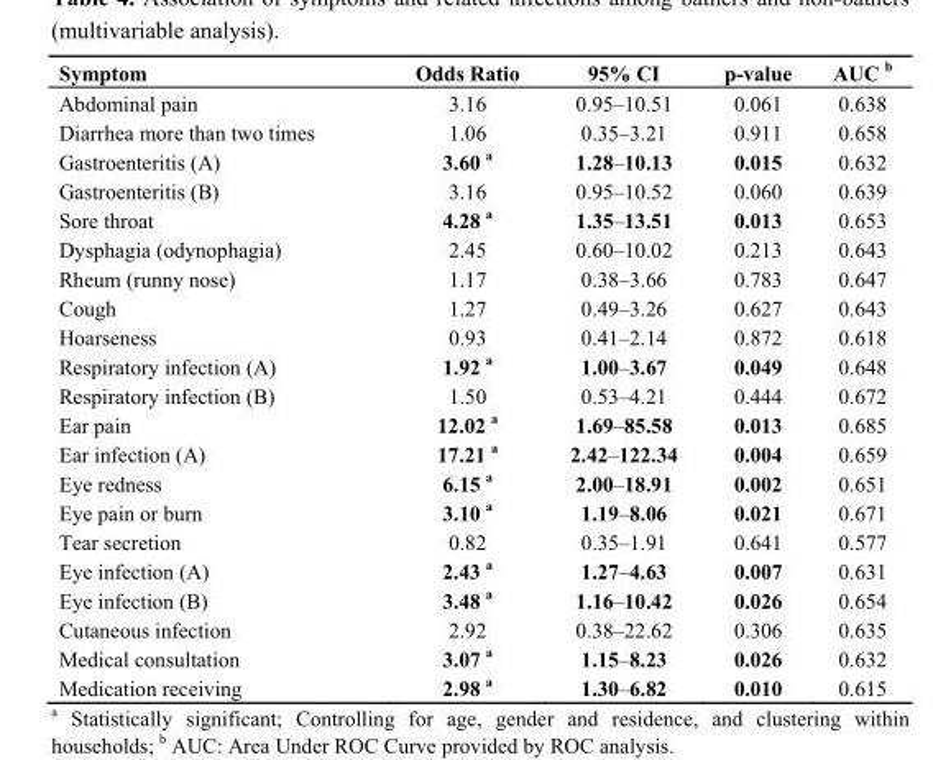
<table><thead><tr><td>Symptom</td><td>Odds Ratio</td><td>95% CI</td><td>p-value</td><td>AUC <sup>b</sup></td></tr></thead><tbody><tr><td>Abdominal pain</td><td>3.16</td><td>0.95–10.51</td><td>0.061</td><td>0.638</td></tr><tr><td>Diarrhea more than two times</td><td>1.06</td><td>0.35–3.21</td><td>0.911</td><td>0.658</td></tr><tr><td>Gastroenteritis (A)</td><td>3.60 <sup>a</sup></td><td>1.28–10.13</td><td>0.015</td><td>0.632</td></tr><tr><td>Gastroenteritis (B)</td><td>3.16</td><td>0.95–10.52</td><td>0.060</td><td>0.639</td></tr><tr><td>Sore throat</td><td>4.28 <sup>a</sup></td><td>1.35–13.51</td><td>0.013</td><td>0.653</td></tr><tr><td>Dysphagia (odynophagia)</td><td>2.45</td><td>0.60–10.02</td><td>0.213</td><td>0.643</td></tr><tr><td>Rheum (runny nose)</td><td>1.17</td><td>0.38–3.66</td><td>0.783</td><td>0.647</td></tr><tr><td>Cough</td><td>1.27</td><td>0.49–3.26</td><td>0.627</td><td>0.643</td></tr><tr><td>Hoarseness</td><td>0.93</td><td>0.41–2.14</td><td>0.872</td><td>0.618</td></tr><tr><td>Respiratory infection (A)</td><td>1.92 <sup>a</sup></td><td>1.00–3.67</td><td>0.049</td><td>0.648</td></tr><tr><td>Respiratory infection (B)</td><td>1.50</td><td>0.53–4.21</td><td>0.444</td><td>0.672</td></tr><tr><td>Ear pain</td><td>12.02 <sup>a</sup></td><td>1.69–85.58</td><td>0.013</td><td>0.685</td></tr><tr><td>Ear infection (A)</td><td>17.21 <sup>a</sup></td><td>2.42–122.34</td><td>0.004</td><td>0.659</td></tr><tr><td>Eye redness</td><td>6.15 <sup>a</sup></td><td>2.00–18.91</td><td>0.002</td><td>0.651</td></tr><tr><td>Eye pain or burn</td><td>3.10 <sup>a</sup></td><td>1.19–8.06</td><td>0.021</td><td>0.671</td></tr><tr><td>Tear secretion</td><td>0.82</td><td>0.35–1.91</td><td>0.641</td><td>0.577</td></tr><tr><td>Eye infection (A)</td><td>2.43 <sup>a</sup></td><td>1.27–4.63</td><td>0.007</td><td>0.631</td></tr><tr><td>Eye infection (B)</td><td>3.48 <sup>a</sup></td><td>1.16–10.42</td><td>0.026</td><td>0.654</td></tr><tr><td>Cutaneous infection</td><td>2.92</td><td>0.38–22.62</td><td>0.306</td><td>0.635</td></tr><tr><td>Medical consultation</td><td>3.07 <sup>a</sup></td><td>1.15–8.23</td><td>0.026</td><td>0.632</td></tr><tr><td>Medication receiving</td><td>2.98 <sup>a</sup></td><td>1.30–6.82</td><td>0.010</td><td>0.615</td></tr></tbody></table>